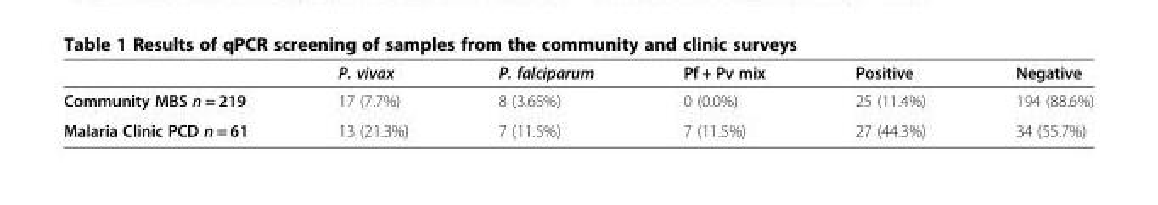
<table><thead><tr><td></td><td>P. vivax</td><td>P. falciparum</td><td>Pf + Pv mix</td><td>Positive</td><td>Negative</td></tr></thead><tbody><tr><td>Community MBS n = 219</td><td>17 (7.7%)</td><td>8 (3.65%)</td><td>0 (0.0%)</td><td>25 (11.4%)</td><td>194 (88.6%)</td></tr><tr><td>Malaria Clinic PCD n = 61</td><td>13 (21.3%)</td><td>7 (11.5%)</td><td>7 (11.5%)</td><td>27 (44.3%)</td><td>34 (55.7%)</td></tr></tbody></table>